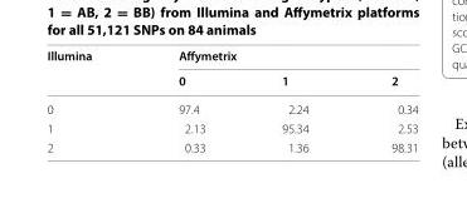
<table><thead><tr><td rowspan="2">Illumina</td><td colspan="3">Affymetrix</td></tr><tr><td>0</td><td>1</td><td>2</td></tr></thead><tbody><tr><td>0</td><td>97.4</td><td>2.24</td><td>0.34</td></tr><tr><td>1</td><td>2.13</td><td>95.34</td><td>2.53</td></tr><tr><td>2</td><td>0.33</td><td>1.36</td><td>98.31</td></tr></tbody></table>